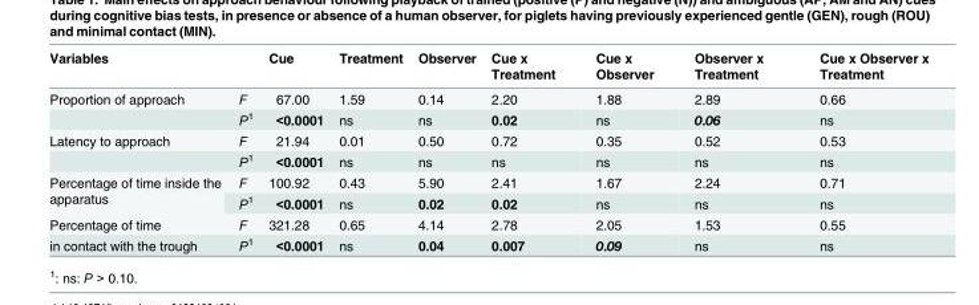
<table><thead><tr><td>Variables</td><td></td><td>Cue</td><td>Treatment</td><td>Observer</td><td>Cue x Treatment</td><td>Cue x Observer</td><td>Observer x Treatment</td><td>Cue x Observer x Treatment</td></tr></thead><tbody><tr><td rowspan="2">Proportion of approach</td><td>F</td><td>67.00</td><td>1.59</td><td>0.14</td><td>2.20</td><td>1.88</td><td>2.89</td><td>0.66</td></tr><tr><td>P<sup>1</sup></td><td>&lt;0.0001</td><td>ns</td><td>ns</td><td>0.02</td><td>ns</td><td>0.06</td><td>ns</td></tr><tr><td rowspan="2">Latency to approach</td><td>F</td><td>21.94</td><td>0.01</td><td>0.50</td><td>0.72</td><td>0.35</td><td>0.52</td><td>0.53</td></tr><tr><td>P<sup>1</sup></td><td>&lt;0.0001</td><td>ns</td><td>ns</td><td>ns</td><td>ns</td><td>ns</td><td>ns</td></tr><tr><td rowspan="2">Percentage of time inside the apparatus</td><td>F</td><td>100.92</td><td>0.43</td><td>5.90</td><td>2.41</td><td>1.67</td><td>2.24</td><td>0.71</td></tr><tr><td>P<sup>1</sup></td><td>&lt;0.0001</td><td>ns</td><td>0.02</td><td>0.02</td><td>ns</td><td>ns</td><td>ns</td></tr><tr><td>Percentage of time</td><td>F</td><td>321.28</td><td>0.65</td><td>4.14</td><td>2.78</td><td>2.05</td><td>1.53</td><td>0.55</td></tr><tr><td>in contact with the trough</td><td>P<sup>1</sup></td><td>&lt;0.0001</td><td>ns</td><td>0.04</td><td>0.007</td><td>0.09</td><td>ns</td><td>ns</td></tr></tbody></table>